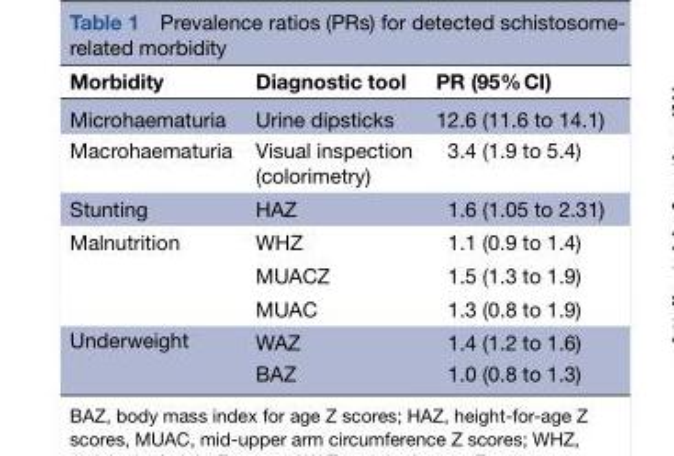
<table><thead><tr><td>Morbidity</td><td>Diagnostic tool</td><td>PR (95% CI)</td></tr></thead><tbody><tr><td>Microhaematuria</td><td>Urine dipsticks</td><td>12.6 (11.6 to 14.1)</td></tr><tr><td>Macrohaematuria</td><td>Visual inspection (colorimetry)</td><td>3.4 (1.9 to 5.4)</td></tr><tr><td>Stunting</td><td>HAZ</td><td>1.6 (1.05 to 2.31)</td></tr><tr><td rowspan="3">Malnutrition</td><td>WHZ</td><td>1.1 (0.9 to 1.4)</td></tr><tr><td>MUACZ</td><td>1.5 (1.3 to 1.9)</td></tr><tr><td>MUAC</td><td>1.3 (0.8 to 1.9)</td></tr><tr><td rowspan="2">Underweight</td><td>WAZ</td><td>1.4 (1.2 to 1.6)</td></tr><tr><td>BAZ</td><td>1.0 (0.8 to 1.3)</td></tr></tbody></table>